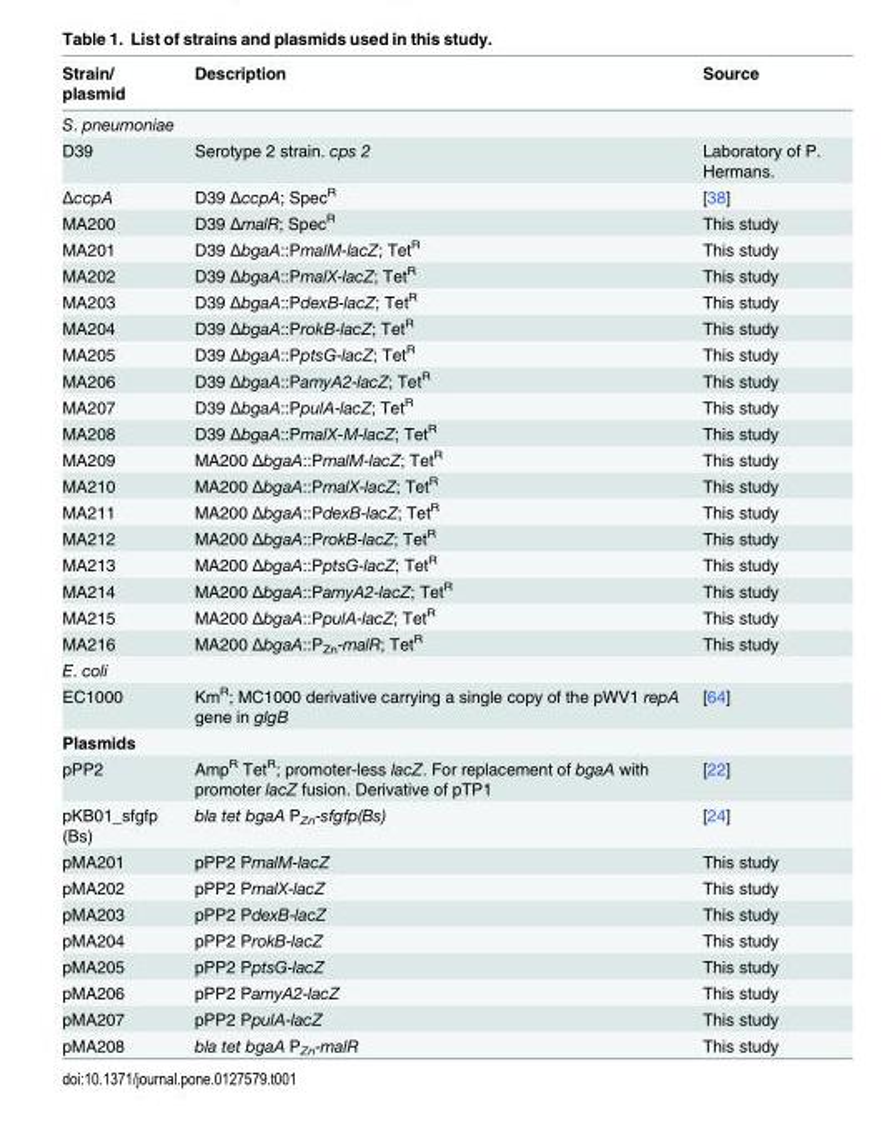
<table><thead><tr><td>Strain/ plasmid</td><td>Description</td><td>Source</td></tr></thead><tbody><tr><td colspan="3">S. pneumoniae</td></tr><tr><td>D39</td><td>Serotype 2 strain. cps 2</td><td>Laboratory of P. Hermans.</td></tr><tr><td>ΔccpA</td><td>D39 ΔccpA; Spec<sup>R</sup></td><td>[38]</td></tr><tr><td>MA200</td><td>D39 ΔmalR; Spec<sup>R</sup></td><td>This study</td></tr><tr><td>MA201</td><td>D39 ΔbgaA::PmalM-lacZ; Tet<sup>R</sup></td><td>This study</td></tr><tr><td>MA202</td><td>D39 ΔbgaA::PmalX-lacZ; Tet<sup>R</sup></td><td>This study</td></tr><tr><td>MA203</td><td>D39 ΔbgaA::PdexB-lacZ; Tet<sup>R</sup></td><td>This study</td></tr><tr><td>MA204</td><td>D39 ΔbgaA::ProkB-lacZ; Tet<sup>R</sup></td><td>This study</td></tr><tr><td>MA205</td><td>D39 ΔbgaA::PptsG-lacZ; Tet<sup>R</sup></td><td>This study</td></tr><tr><td>MA206</td><td>D39 ΔbgaA::PamyA2-lacZ; Tet<sup>R</sup></td><td>This study</td></tr><tr><td>MA207</td><td>D39 ΔbgaA::PpulA-lacZ; Tet<sup>R</sup></td><td>This study</td></tr><tr><td>MA208</td><td>D39 ΔbgaA::PmalX-M-lacZ; Tet<sup>R</sup></td><td>This study</td></tr><tr><td>MA209</td><td>MA200 ΔbgaA::PmalM-lacZ; Tet<sup>R</sup></td><td>This study</td></tr><tr><td>MA210</td><td>MA200 ΔbgaA::PmalX-lacZ; Tet<sup>R</sup></td><td>This study</td></tr><tr><td>MA211</td><td>MA200 ΔbgaA::PdexB-lacZ; Tet<sup>R</sup></td><td>This study</td></tr><tr><td>MA212</td><td>MA200 ΔbgaA::ProkB-lacZ; Tet<sup>R</sup></td><td>This study</td></tr><tr><td>MA213</td><td>MA200 ΔbgaA::PptsG-lacZ; Tet<sup>R</sup></td><td>This study</td></tr><tr><td>MA214</td><td>MA200 ΔbgaA::PamyA2-lacZ; Tet<sup>R</sup></td><td>This study</td></tr><tr><td>MA215</td><td>MA200 ΔbgaA::PpulA-lacZ; Tet<sup>R</sup></td><td>This study</td></tr><tr><td>MA216</td><td>MA200 ΔbgaA::P<sub>Zn</sub>-malR; Tet<sup>R</sup></td><td>This study</td></tr><tr><td colspan="3">E. coli</td></tr><tr><td>EC1000</td><td>Km<sup>R</sup>; MC1000 derivative carrying a single copy of the pWV1 repA gene in glgB</td><td>[64]</td></tr><tr><td colspan="3">Plasmids</td></tr><tr><td>pPP2</td><td>Amp<sup>R</sup> Tet<sup>R</sup>; promoter-less lacZ. For replacement of bgaA with promoter lacZ fusion. Derivative of pTP1</td><td>[22]</td></tr><tr><td>pKB01_sfgfp (Bs)</td><td>bla tet bgaA P<sub>Zn</sub>-sfgfp(Bs)</td><td>[24]</td></tr><tr><td>pMA201</td><td>pPP2 PmalM-lacZ</td><td>This study</td></tr><tr><td>pMA202</td><td>pPP2 PmalX-lacZ</td><td>This study</td></tr><tr><td>pMA203</td><td>pPP2 PdexB-lacZ</td><td>This study</td></tr><tr><td>pMA204</td><td>pPP2 ProkB-lacZ</td><td>This study</td></tr><tr><td>pMA205</td><td>pPP2 PptsG-lacZ</td><td>This study</td></tr><tr><td>pMA206</td><td>pPP2 PamyA2-lacZ</td><td>This study</td></tr><tr><td>pMA207</td><td>pPP2 PpulA-lacZ</td><td>This study</td></tr><tr><td>pMA208</td><td>bla tet bgaA P<sub>Zn</sub>-malR</td><td>This study</td></tr></tbody></table>